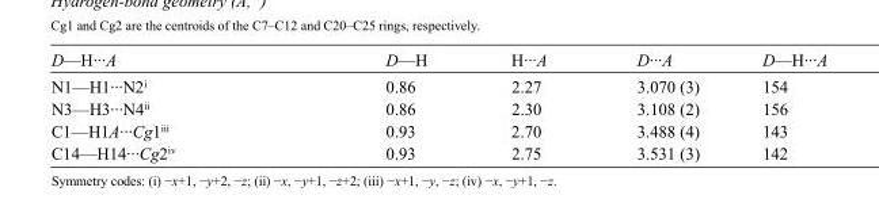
<table><tbody><tr><td>D—H···A</td><td>D—H</td><td>H···A</td><td>D···A</td><td>D—H···A</td></tr><tr><td>N1—H1···N2<sup>i</sup></td><td>0.86</td><td>2.27</td><td>3.070 (3)</td><td>154</td></tr><tr><td>N3—H3···N4<sup>ii</sup></td><td>0.86</td><td>2.30</td><td>3.108 (2)</td><td>156</td></tr><tr><td>C1—H1A···Cg1<sup>iii</sup></td><td>0.93</td><td>2.70</td><td>3.488 (4)</td><td>143</td></tr><tr><td>C14—H14···Cg2<sup>iv</sup></td><td>0.93</td><td>2.75</td><td>3.531 (3)</td><td>142</td></tr></tbody></table>